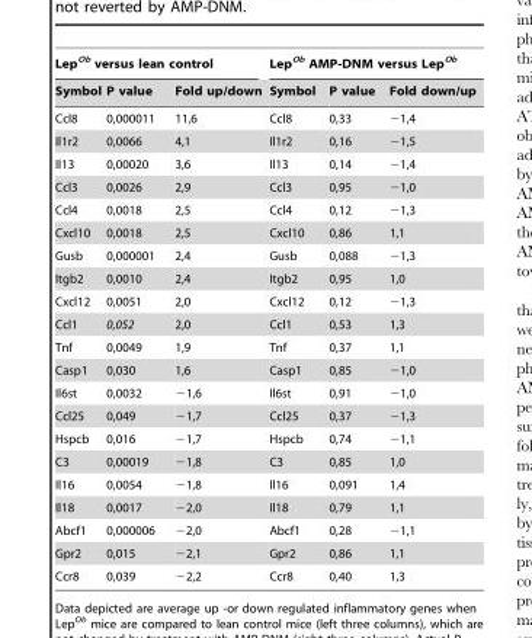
<table><thead><tr><td colspan="3">Lep<sup>Ob</sup> versus lean control</td><td colspan="3">Lep<sup>Ob</sup> AMP-DNM versus Lep<sup>Ob</sup></td></tr><tr><td>Symbol</td><td>P value</td><td>Fold up/down</td><td>Symbol</td><td>P value</td><td>Fold down/up</td></tr></thead><tbody><tr><td>Ccl8</td><td>0,000011</td><td>11,6</td><td>Ccl8</td><td>0,33</td><td>−1,4</td></tr><tr><td>Il1r2</td><td>0,0066</td><td>4,1</td><td>Il1r2</td><td>0,16</td><td>−1,5</td></tr><tr><td>Il13</td><td>0,00020</td><td>3,6</td><td>Il13</td><td>0,14</td><td>−1,4</td></tr><tr><td>Ccl3</td><td>0,0026</td><td>2,9</td><td>Ccl3</td><td>0,95</td><td>−1,0</td></tr><tr><td>Ccl4</td><td>0,0018</td><td>2,5</td><td>Ccl4</td><td>0,12</td><td>−1,3</td></tr><tr><td>Cxcl10</td><td>0,0018</td><td>2,5</td><td>Cxcl10</td><td>0,86</td><td>1,1</td></tr><tr><td>Gusb</td><td>0,000001</td><td>2,4</td><td>Gusb</td><td>0,088</td><td>−1,3</td></tr><tr><td>Itgb2</td><td>0,0010</td><td>2,4</td><td>Itgb2</td><td>0,95</td><td>1,0</td></tr><tr><td>Cxcl12</td><td>0,0051</td><td>2,0</td><td>Cxcl12</td><td>0,12</td><td>−1,3</td></tr><tr><td>Ccl1</td><td>0,052</td><td>2,0</td><td>Ccl1</td><td>0,53</td><td>1,3</td></tr><tr><td>Tnf</td><td>0,0049</td><td>1,9</td><td>Tnf</td><td>0,37</td><td>1,1</td></tr><tr><td>Casp1</td><td>0,030</td><td>1,6</td><td>Casp1</td><td>0,85</td><td>−1,0</td></tr><tr><td>Il6st</td><td>0,0032</td><td>−1,6</td><td>Il6st</td><td>0,91</td><td>−1,0</td></tr><tr><td>Ccl25</td><td>0,049</td><td>−1,7</td><td>Ccl25</td><td>0,37</td><td>−1,3</td></tr><tr><td>Hspcb</td><td>0,016</td><td>−1,7</td><td>Hspcb</td><td>0,74</td><td>−1,1</td></tr><tr><td>C3</td><td>0,00019</td><td>−1,8</td><td>C3</td><td>0,85</td><td>1,0</td></tr><tr><td>Il16</td><td>0,0054</td><td>−1,8</td><td>Il16</td><td>0,091</td><td>1,4</td></tr><tr><td>Il18</td><td>0,0017</td><td>−2,0</td><td>Il18</td><td>0,79</td><td>1,1</td></tr><tr><td>Abcf1</td><td>0,000006</td><td>−2,0</td><td>Abcf1</td><td>0,28</td><td>−1,1</td></tr><tr><td>Gpr2</td><td>0,015</td><td>−2,1</td><td>Gpr2</td><td>0,86</td><td>1,1</td></tr><tr><td>Ccr8</td><td>0,039</td><td>−2,2</td><td>Ccr8</td><td>0,40</td><td>1,3</td></tr></tbody></table>